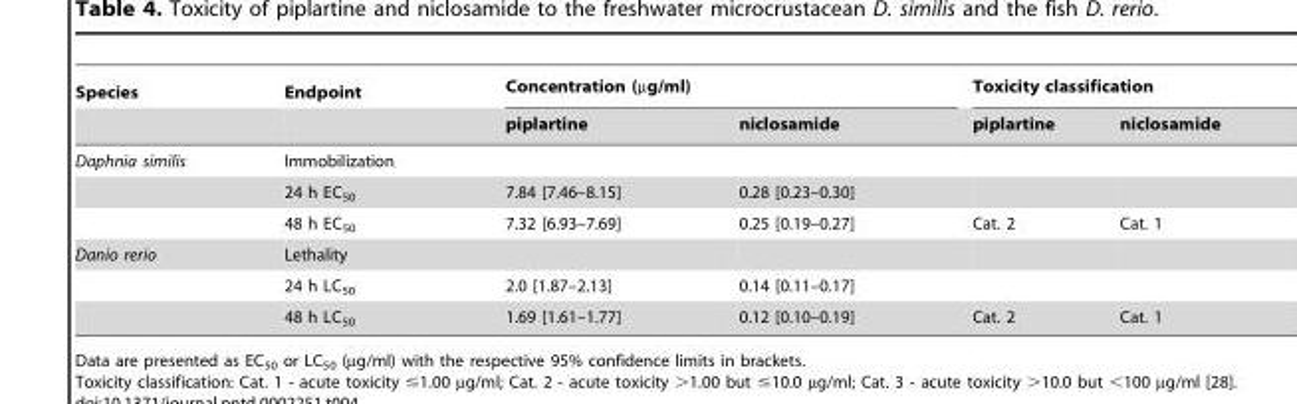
<table><thead><tr><td rowspan="2">Species</td><td rowspan="2">Endpoint</td><td colspan="2">Concentration (µg/ml)</td><td colspan="2">Toxicity classification</td></tr><tr><td>piplartine</td><td>niclosamide</td><td>piplartine</td><td>niclosamide</td></tr></thead><tbody><tr><td rowspan="3">Daphnia similis</td><td>Immobilization</td><td></td><td></td><td></td><td></td></tr><tr><td>24 h EC<sub>50</sub></td><td>7.84 [7.46–8.15]</td><td>0.28 [0.23–0.30]</td><td></td><td></td></tr><tr><td>48 h EC<sub>50</sub></td><td>7.32 [6.93–7.69]</td><td>0.25 [0.19–0.27]</td><td>Cat. 2</td><td>Cat. 1</td></tr><tr><td rowspan="3">Danio rerio</td><td>Lethality</td><td></td><td></td><td></td><td></td></tr><tr><td>24 h LC<sub>50</sub></td><td>2.0 [1.87–2.13]</td><td>0.14 [0.11–0.17]</td><td></td><td></td></tr><tr><td>48 h LC<sub>50</sub></td><td>1.69 [1.61–1.77]</td><td>0.12 [0.10–0.19]</td><td>Cat. 2</td><td>Cat. 1</td></tr></tbody></table>